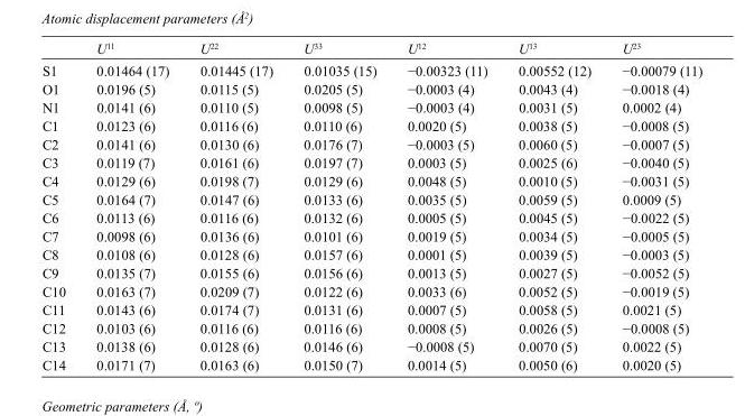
<table><thead><tr><td></td><td>U<sup>11</sup></td><td>U<sup>22</sup></td><td>U<sup>33</sup></td><td>U<sup>12</sup></td><td>U<sup>13</sup></td><td>U<sup>23</sup></td></tr></thead><tbody><tr><td>S1</td><td>0.01464 (17)</td><td>0.01445 (17)</td><td>0.01035 (15)</td><td>−0.00323 (11)</td><td>0.00552 (12)</td><td>−0.00079 (11)</td></tr><tr><td>O1</td><td>0.0196 (5)</td><td>0.0115 (5)</td><td>0.0205 (5)</td><td>−0.0003 (4)</td><td>0.0043 (4)</td><td>−0.0018 (4)</td></tr><tr><td>N1</td><td>0.0141 (6)</td><td>0.0110 (5)</td><td>0.0098 (5)</td><td>−0.0003 (4)</td><td>0.0031 (5)</td><td>0.0002 (4)</td></tr><tr><td>C1</td><td>0.0123 (6)</td><td>0.0116 (6)</td><td>0.0110 (6)</td><td>0.0020 (5)</td><td>0.0038 (5)</td><td>−0.0008 (5)</td></tr><tr><td>C2</td><td>0.0141 (6)</td><td>0.0130 (6)</td><td>0.0176 (7)</td><td>−0.0003 (5)</td><td>0.0060 (5)</td><td>−0.0007 (5)</td></tr><tr><td>C3</td><td>0.0119 (7)</td><td>0.0161 (6)</td><td>0.0197 (7)</td><td>0.0003 (5)</td><td>0.0025 (6)</td><td>−0.0040 (5)</td></tr><tr><td>C4</td><td>0.0129 (6)</td><td>0.0198 (7)</td><td>0.0129 (6)</td><td>0.0048 (5)</td><td>0.0010 (5)</td><td>−0.0031 (5)</td></tr><tr><td>C5</td><td>0.0164 (7)</td><td>0.0147 (6)</td><td>0.0133 (6)</td><td>0.0035 (5)</td><td>0.0059 (5)</td><td>0.0009 (5)</td></tr><tr><td>C6</td><td>0.0113 (6)</td><td>0.0116 (6)</td><td>0.0132 (6)</td><td>0.0005 (5)</td><td>0.0045 (5)</td><td>−0.0022 (5)</td></tr><tr><td>C7</td><td>0.0098 (6)</td><td>0.0136 (6)</td><td>0.0101 (6)</td><td>0.0019 (5)</td><td>0.0034 (5)</td><td>−0.0005 (5)</td></tr><tr><td>C8</td><td>0.0108 (6)</td><td>0.0128 (6)</td><td>0.0157 (6)</td><td>0.0001 (5)</td><td>0.0039 (5)</td><td>−0.0003 (5)</td></tr><tr><td>C9</td><td>0.0135 (7)</td><td>0.0155 (6)</td><td>0.0156 (6)</td><td>0.0013 (5)</td><td>0.0027 (5)</td><td>−0.0052 (5)</td></tr><tr><td>C10</td><td>0.0163 (7)</td><td>0.0209 (7)</td><td>0.0122 (6)</td><td>0.0033 (6)</td><td>0.0052 (5)</td><td>−0.0019 (5)</td></tr><tr><td>C11</td><td>0.0143 (6)</td><td>0.0174 (7)</td><td>0.0131 (6)</td><td>0.0007 (5)</td><td>0.0058 (5)</td><td>0.0021 (5)</td></tr><tr><td>C12</td><td>0.0103 (6)</td><td>0.0116 (6)</td><td>0.0116 (6)</td><td>0.0008 (5)</td><td>0.0026 (5)</td><td>−0.0008 (5)</td></tr><tr><td>C13</td><td>0.0138 (6)</td><td>0.0128 (6)</td><td>0.0146 (6)</td><td>−0.0008 (5)</td><td>0.0070 (5)</td><td>0.0022 (5)</td></tr><tr><td>C14</td><td>0.0171 (7)</td><td>0.0163 (6)</td><td>0.0150 (7)</td><td>0.0014 (5)</td><td>0.0050 (6)</td><td>0.0020 (5)</td></tr></tbody></table>